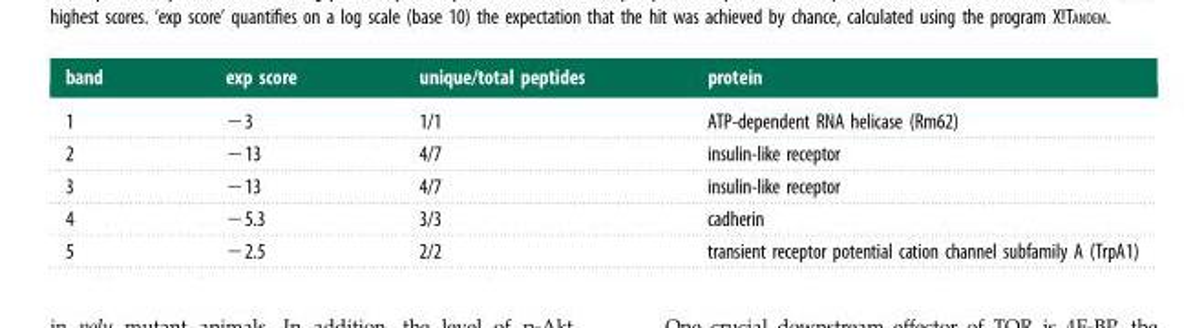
<table><thead><tr><td>band</td><td>exp score</td><td>unique/total peptides</td><td>protein</td></tr></thead><tbody><tr><td>1</td><td>−3</td><td>1/1</td><td>ATP-dependent RNA helicase (Rm62)</td></tr><tr><td>2</td><td>−13</td><td>4/7</td><td>insulin-like receptor</td></tr><tr><td>3</td><td>−13</td><td>4/7</td><td>insulin-like receptor</td></tr><tr><td>4</td><td>−5.3</td><td>3/3</td><td>cadherin</td></tr><tr><td>5</td><td>−2.5</td><td>2/2</td><td>transient receptor potential cation channel subfamily A (TrpA1)</td></tr></tbody></table>